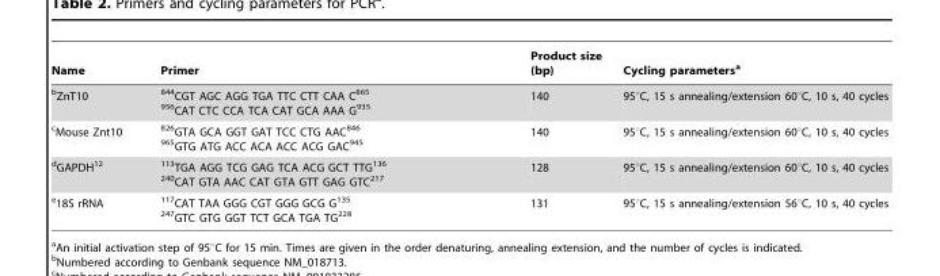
<table><thead><tr><td>Name</td><td>Primer</td><td>Product size (bp)</td><td>Cycling parameters<sup>a</sup></td></tr></thead><tbody><tr><td>bZnT10</td><td><sup>844</sup>CGT AGC AGG TGA TTC CTT CAA C<sup>865 956</sup>CAT CTC CCA TCA CAT GCA AAA G<sup>935</sup></td><td>140</td><td>95°C, 15 s annealing/extension 60°C, 10 s, 40 cycles</td></tr><tr><td>cMouse Znt10</td><td><sup>826</sup>GTA GCA GGT GAT TCC CTG AAC<sup>846 965</sup>GTG ATG ACC ACA ACC ACG GAC<sup>945</sup></td><td>140</td><td>95°C, 15 s annealing/extension 60°C, 10 s, 40 cycles</td></tr><tr><td>dGAPDH<sup>12</sup></td><td><sup>113</sup>TGA AGG TCG GAG TCA ACG GCT TTG<sup>136 240</sup>CAT GTA AAC CAT GTA GTT GAG GTC<sup>217</sup></td><td>128</td><td>95°C, 15 s annealing/extension 60°C, 10 s, 40 cycles</td></tr><tr><td>e18S rRNA</td><td><sup>117</sup>CAT TAA GGG CGT GGG GCG G<sup>135 247</sup>GTC GTG GGT TCT GCA TGA TG<sup>228</sup></td><td>131</td><td>95°C, 15 s annealing/extension 56°C, 10 s, 40 cycles</td></tr></tbody></table>